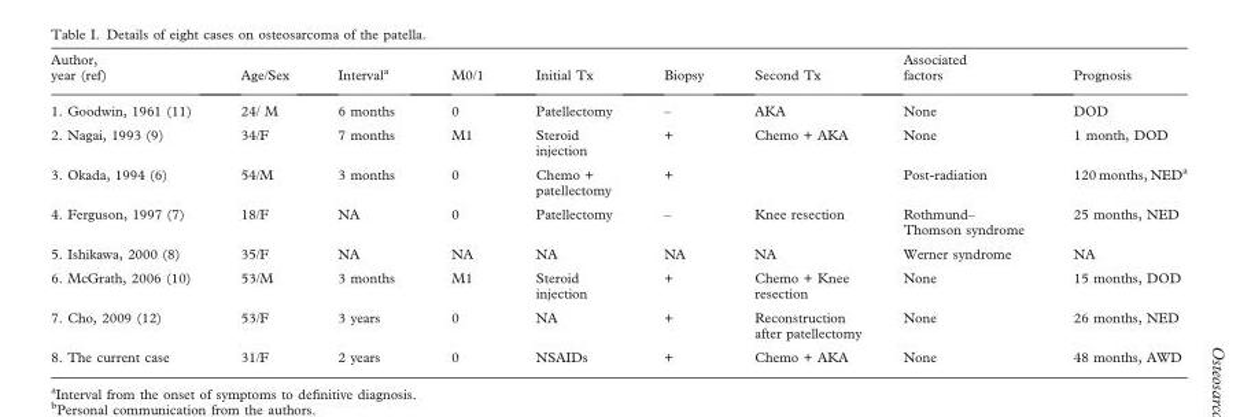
<table><thead><tr><td>Author, year (ref)</td><td>Age/Sex</td><td>Interval<sup>a</sup></td><td>M0/1</td><td>Initial Tx</td><td>Biopsy</td><td>Second Tx</td><td>Associated factors</td><td>Prognosis</td></tr></thead><tbody><tr><td>1. Goodwin, 1961 (11)</td><td>24/ M</td><td>6 months</td><td>0</td><td>Patellectomy</td><td>–</td><td>AKA</td><td>None</td><td>DOD</td></tr><tr><td>2. Nagai, 1993 (9)</td><td>34/F</td><td>7 months</td><td>M1</td><td>Steroid injection</td><td>+</td><td>Chemo + AKA</td><td>None</td><td>1 month, DOD</td></tr><tr><td>3. Okada, 1994 (6)</td><td>54/M</td><td>3 months</td><td>0</td><td>Chemo + patellectomy</td><td>+</td><td></td><td>Post-radiation</td><td>120 months, NED<sup>a</sup></td></tr><tr><td>4. Ferguson, 1997 (7)</td><td>18/F</td><td>NA</td><td>0</td><td>Patellectomy</td><td>–</td><td>Knee resection</td><td>Rothmund– Thomson syndrome</td><td>25 months, NED</td></tr><tr><td>5. Ishikawa, 2000 (8)</td><td>35/F</td><td>NA</td><td>NA</td><td>NA</td><td>NA</td><td>NA</td><td>Werner syndrome</td><td>NA</td></tr><tr><td>6. McGrath, 2006 (10)</td><td>53/M</td><td>3 months</td><td>M1</td><td>Steroid injection</td><td>+</td><td>Chemo + Knee resection</td><td>None</td><td>15 months, DOD</td></tr><tr><td>7. Cho, 2009 (12)</td><td>53/F</td><td>3 years</td><td>0</td><td>NA</td><td>+</td><td>Reconstruction after patellectomy</td><td>None</td><td>26 months, NED</td></tr><tr><td>8. The current case</td><td>31/F</td><td>2 years</td><td>0</td><td>NSAIDs</td><td>+</td><td>Chemo + AKA</td><td>None</td><td>48 months, AWD</td></tr></tbody></table>